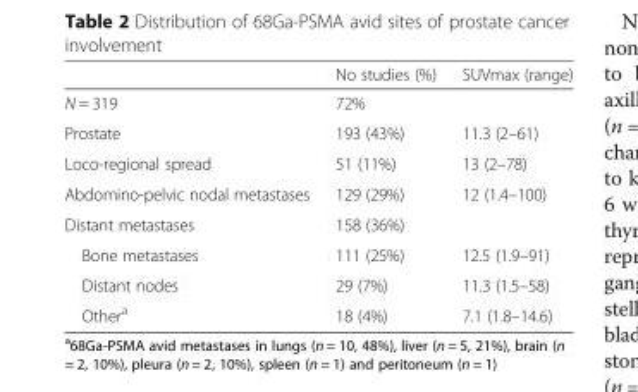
<table><thead><tr><td></td><td>No studies (%)</td><td>SUVmax (range)</td></tr></thead><tbody><tr><td>N = 319</td><td>72%</td><td></td></tr><tr><td>Prostate</td><td>193 (43%)</td><td>11.3 (2–61)</td></tr><tr><td>Loco-regional spread</td><td>51 (11%)</td><td>13 (2–78)</td></tr><tr><td>Abdomino-pelvic nodal metastases</td><td>129 (29%)</td><td>12 (1.4–100)</td></tr><tr><td>Distant metastases</td><td>158 (36%)</td><td></td></tr><tr><td>Bone metastases</td><td>111 (25%)</td><td>12.5 (1.9–91)</td></tr><tr><td>Distant nodes</td><td>29 (7%)</td><td>11.3 (1.5–58)</td></tr><tr><td>Other<sup>a</sup></td><td>18 (4%)</td><td>7.1 (1.8–14.6)</td></tr></tbody></table>